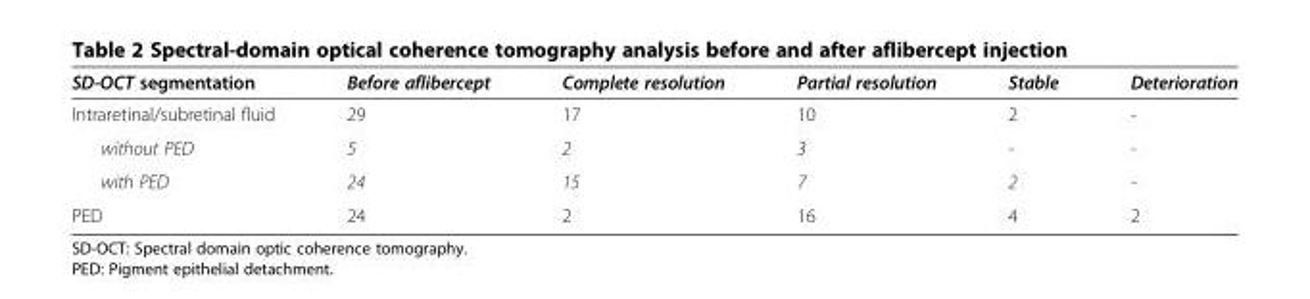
<table><thead><tr><td>SD-OCT segmentation</td><td>Before aflibercept</td><td>Complete resolution</td><td>Partial resolution</td><td>Stable</td><td>Deterioration</td></tr></thead><tbody><tr><td>Intraretinal/subretinal fluid</td><td>29</td><td>17</td><td>10</td><td>2</td><td>-</td></tr><tr><td>without PED</td><td>5</td><td>2</td><td>3</td><td>-</td><td>-</td></tr><tr><td>with PED</td><td>24</td><td>15</td><td>7</td><td>2</td><td>-</td></tr><tr><td>PED</td><td>24</td><td>2</td><td>16</td><td>4</td><td>2</td></tr></tbody></table>